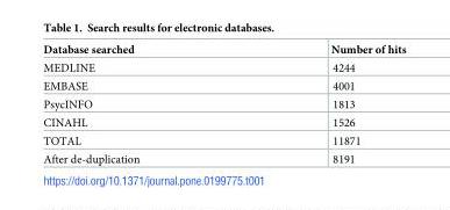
<table><thead><tr><td>Database searched</td><td>Number of hits</td></tr></thead><tbody><tr><td>MEDLINE</td><td>4244</td></tr><tr><td>EMBASE</td><td>4001</td></tr><tr><td>PsycINFO</td><td>1813</td></tr><tr><td>CINAHL</td><td>1526</td></tr><tr><td>TOTAL</td><td>11871</td></tr><tr><td>After de-duplication</td><td>8191</td></tr></tbody></table>